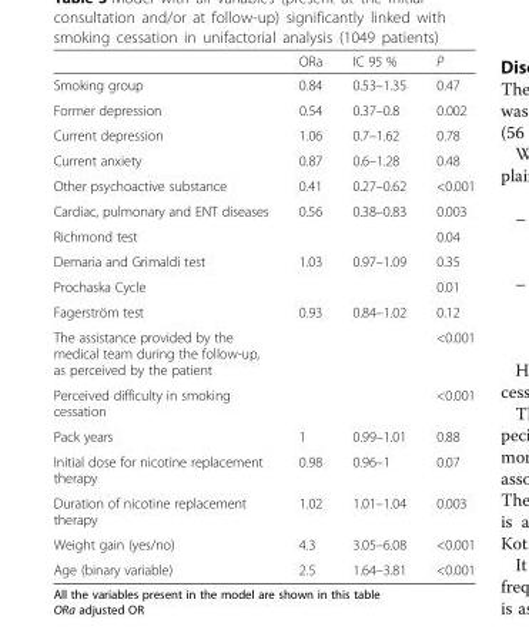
<table><thead><tr><td></td><td>ORa</td><td>IC 95 %</td><td>P</td></tr></thead><tbody><tr><td>Smoking group</td><td>0.84</td><td>0.53–1.35</td><td>0.47</td></tr><tr><td>Former depression</td><td>0.54</td><td>0.37–0.8</td><td>0.002</td></tr><tr><td>Current depression</td><td>1.06</td><td>0.7–1.62</td><td>0.78</td></tr><tr><td>Current anxiety</td><td>0.87</td><td>0.6–1.28</td><td>0.48</td></tr><tr><td>Other psychoactive substance</td><td>0.41</td><td>0.27–0.62</td><td>&lt;0.001</td></tr><tr><td>Cardiac, pulmonary and ENT diseases</td><td>0.56</td><td>0.38–0.83</td><td>0.003</td></tr><tr><td>Richmond test</td><td></td><td></td><td>0.04</td></tr><tr><td>Demaria and Grimaldi test</td><td>1.03</td><td>0.97–1.09</td><td>0.35</td></tr><tr><td>Prochaska Cycle</td><td></td><td></td><td>0.01</td></tr><tr><td>Fagerström test</td><td>0.93</td><td>0.84–1.02</td><td>0.12</td></tr><tr><td>The assistance provided by the medical team during the follow-up, as perceived by the patient</td><td></td><td></td><td>&lt;0.001</td></tr><tr><td>Perceived difficulty in smoking cessation</td><td></td><td></td><td>&lt;0.001</td></tr><tr><td>Pack years</td><td>1</td><td>0.99–1.01</td><td>0.88</td></tr><tr><td>Initial dose for nicotine replacement therapy</td><td>0.98</td><td>0.96–1</td><td>0.07</td></tr><tr><td>Duration of nicotine replacement therapy</td><td>1.02</td><td>1.01–1.04</td><td>0.003</td></tr><tr><td>Weight gain (yes/no)</td><td>4.3</td><td>3.05–6.08</td><td>&lt;0.001</td></tr><tr><td>Age (binary variable)</td><td>2.5</td><td>1.64–3.81</td><td>&lt;0.001</td></tr></tbody></table>